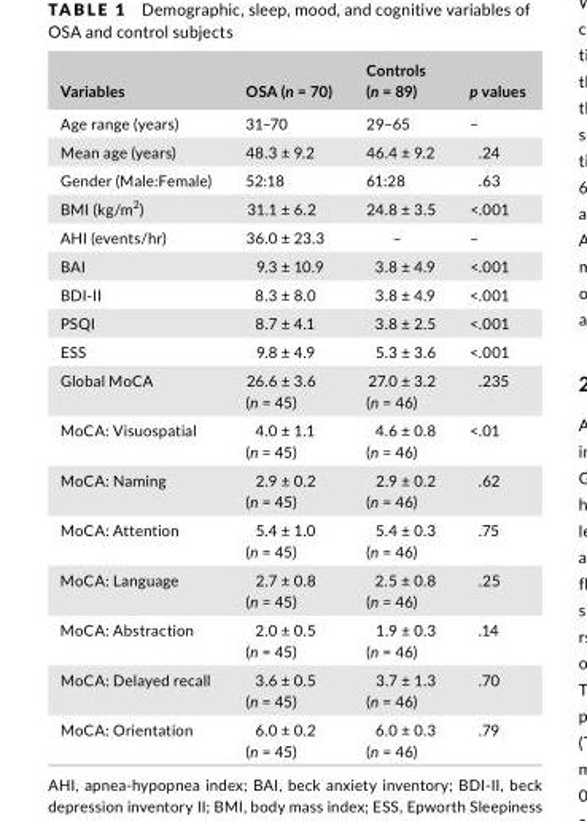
<table><thead><tr><td>Variables</td><td>OSA (n = 70)</td><td>Controls (n = 89)</td><td>p values</td></tr></thead><tbody><tr><td>Age range (years)</td><td>31–70</td><td>29–65</td><td>–</td></tr><tr><td>Mean age (years)</td><td>48.3 ± 9.2</td><td>46.4 ± 9.2</td><td>.24</td></tr><tr><td>Gender (Male:Female)</td><td>52:18</td><td>61:28</td><td>.63</td></tr><tr><td>BMI (kg/m<sup>2</sup>)</td><td>31.1 ± 6.2</td><td>24.8 ± 3.5</td><td>&lt;.001</td></tr><tr><td>AHI (events/hr)</td><td>36.0 ± 23.3</td><td>–</td><td>–</td></tr><tr><td>BAI</td><td>9.3 ± 10.9</td><td>3.8 ± 4.9</td><td>&lt;.001</td></tr><tr><td>BDI- II</td><td>8.3 ± 8.0</td><td>3.8 ± 4.9</td><td>&lt;.001</td></tr><tr><td>PSQI</td><td>8.7 ± 4.1</td><td>3.8 ± 2.5</td><td>&lt;.001</td></tr><tr><td>ESS</td><td>9.8 ± 4.9</td><td>5.3 ± 3.6</td><td>&lt;.001</td></tr><tr><td>Global MoCA</td><td>26.6 ± 3.6 (n = 45)</td><td>27.0 ± 3.2 (n = 46)</td><td>.235</td></tr><tr><td>MoCA: Visuospatial</td><td>4.0 ± 1.1 (n = 45)</td><td>4.6 ± 0.8 (n = 46)</td><td>&lt;.01</td></tr><tr><td>MoCA: Naming</td><td>2.9 ± 0.2 (n = 45)</td><td>2.9 ± 0.2 (n = 46)</td><td>.62</td></tr><tr><td>MoCA: Attention</td><td>5.4 ± 1.0 (n = 45)</td><td>5.4 ± 0.3 (n = 46)</td><td>.75</td></tr><tr><td>MoCA: Language</td><td>2.7 ± 0.8 (n = 45)</td><td>2.5 ± 0.8 (n = 46)</td><td>.25</td></tr><tr><td>MoCA: Abstraction</td><td>2.0 ± 0.5 (n = 45)</td><td>1.9 ± 0.3 (n = 46)</td><td>.14</td></tr><tr><td>MoCA: Delayed recall</td><td>3.6 ± 0.5 (n = 45)</td><td>3.7 ± 1.3 (n = 46)</td><td>.70</td></tr><tr><td>MoCA: Orientation</td><td>6.0 ± 0.2 (n = 45)</td><td>6.0 ± 0.3 (n = 46)</td><td>.79</td></tr></tbody></table>